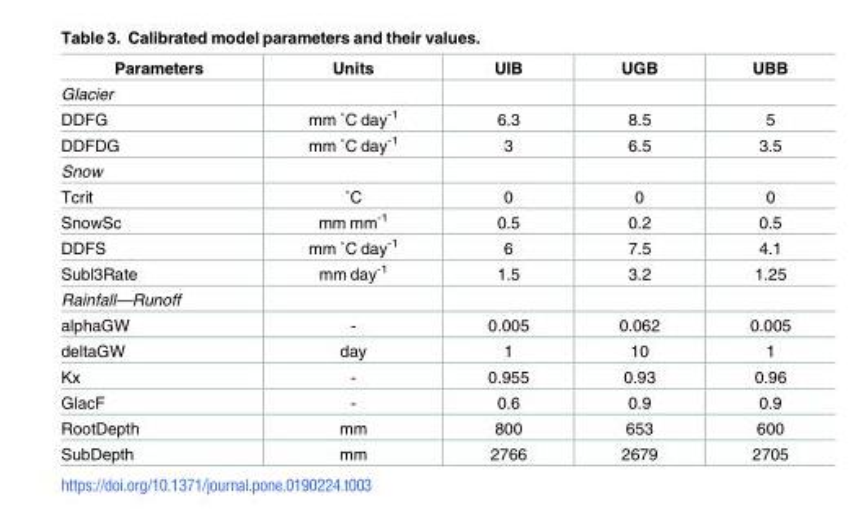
<table><thead><tr><td>Parameters</td><td>Units</td><td>UIB</td><td>UGB</td><td>UBB</td></tr></thead><tbody><tr><td colspan="5">Glacier</td></tr><tr><td>DDFG</td><td>mm ˚C day-1</td><td>6.3</td><td>8.5</td><td>5</td></tr><tr><td>DDFDG</td><td>mm ˚C day-1</td><td>3</td><td>6.5</td><td>3.5</td></tr><tr><td colspan="5">Snow</td></tr><tr><td>Tcrit</td><td>˚C</td><td>0</td><td>0</td><td>0</td></tr><tr><td>SnowSc</td><td>mm mm<sup>-1</sup></td><td>0.5</td><td>0.2</td><td>0.5</td></tr><tr><td>DDFS</td><td>mm ˚C day-1</td><td>6</td><td>7.5</td><td>4.1</td></tr><tr><td>Subl3Rate</td><td>mm day<sup>-1</sup></td><td>1.5</td><td>3.2</td><td>1.25</td></tr><tr><td colspan="5">Rainfall—Runoff</td></tr><tr><td>alphaGW</td><td>-</td><td>0.005</td><td>0.062</td><td>0.005</td></tr><tr><td>deltaGW</td><td>day</td><td>1</td><td>10</td><td>1</td></tr><tr><td>Kx</td><td>-</td><td>0.955</td><td>0.93</td><td>0.96</td></tr><tr><td>GlacF</td><td>-</td><td>0.6</td><td>0.9</td><td>0.9</td></tr><tr><td>RootDepth</td><td>mm</td><td>800</td><td>653</td><td>600</td></tr><tr><td>SubDepth</td><td>mm</td><td>2766</td><td>2679</td><td>2705</td></tr></tbody></table>